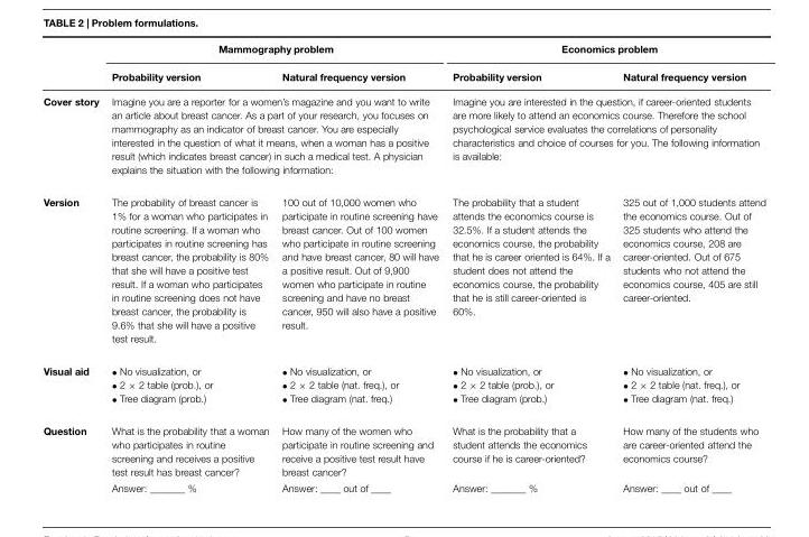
<table><thead><tr><td rowspan="2"></td><td colspan="2">Mammography problem</td><td colspan="2">Economics problem</td></tr><tr><td>Probability version</td><td>Natural frequency version</td><td>Probability version</td><td>Natural frequency version</td></tr></thead><tbody><tr><td>Cover story</td><td colspan="2">Imagine you are a reporter for a women’s magazine and you want to write an article about breast cancer. As a part of your research, you focuses on mammography as an indicator of breast cancer. You are especially interested in the question of what it means, when a woman has a positive result (which indicates breast cancer) in such a medical test. A physician explains the situation with the following information:</td><td colspan="2">Imagine you are interested in the question, if career-oriented students are more likely to attend an economics course. Therefore the school psychological service evaluates the correlations of personality characteristics and choice of courses for you. The following information is available:</td></tr><tr><td>Version</td><td>The probability of breast cancer is 1% for a woman who participates in routine screening. If a woman who participates in routine screening has breast cancer, the probability is 80% that she will have a positive test result. If a woman who participates in routine screening does not have breast cancer, the probability is 9.6% that she will have a positive test result.</td><td>100 out of 10,000 women who participate in routine screening have breast cancer. Out of 100 women who participate in routine screening and have breast cancer, 80 will have a positive result. Out of 9,900 women who participate in routine screening and have no breast cancer, 950 will also have a positive result.</td><td>The probability that a student attends the economics course is 32.5%. If a student attends the economics course, the probability that he is career oriented is 64%. If a student does not attend the economics course, the probability that he is still career-oriented is 60%.</td><td>325 out of 1,000 students attend the economics course. Out of 325 students who attend the economics course, 208 are career-oriented. Out of 675 students who not attend the economics course, 405 are still career-oriented.</td></tr><tr><td>Visual aid</td><td>• No visualization, or • 2 × 2 table (prob.), or • Tree diagram (prob.)</td><td>• No visualization, or • 2 × 2 table (nat. freq.), or • Tree diagram (nat. freq.)</td><td>• No visualization, or • 2 × 2 table (prob.), or • Tree diagram (prob.)</td><td>• No visualization, or • 2 × 2 table (nat. freq.), or • Tree diagram (nat. freq.)</td></tr><tr><td rowspan="2">Question</td><td>What is the probability that a woman who participates in routine screening and receives a positive test result has breast cancer?</td><td>How many of the women who participate in routine screening and receive a positive test result have breast cancer?</td><td>What is the probability that a student attends the economics course if he is career-oriented?</td><td>How many of the students who are career-oriented attend the economics course?</td></tr><tr><td>Answer: _______ %</td><td>Answer: ____ out of ____</td><td>Answer: _______ %</td><td>Answer: ____ out of ____</td></tr></tbody></table>